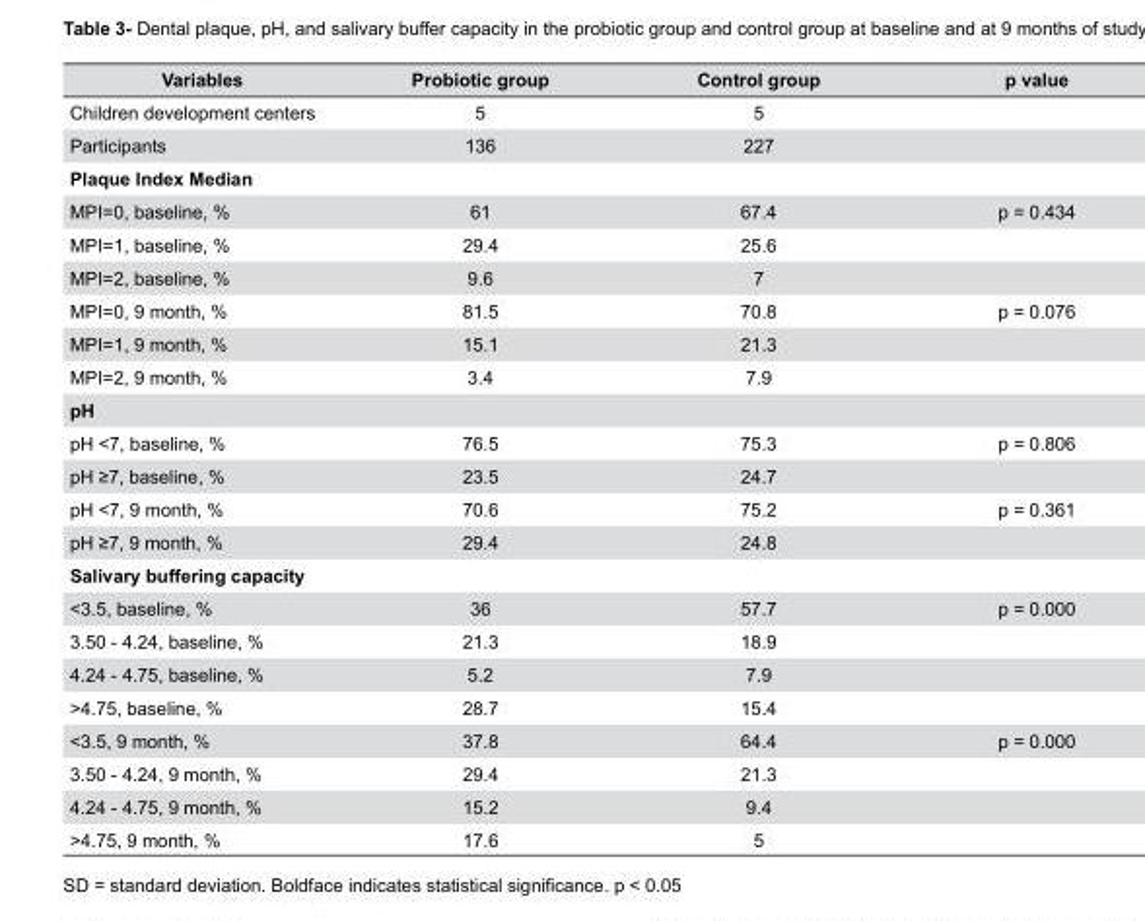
<table><thead><tr><td>Variables</td><td>Probiotic group</td><td>Control group</td><td>p value</td></tr></thead><tbody><tr><td>Children development centers</td><td>5</td><td>5</td><td></td></tr><tr><td>Participants</td><td>136</td><td>227</td><td></td></tr><tr><td colspan="4">Plaque Index Median</td></tr><tr><td>MPI=0, baseline, %</td><td>61</td><td>67.4</td><td>p = 0.434</td></tr><tr><td>MPI=1, baseline, %</td><td>29.4</td><td>25.6</td><td></td></tr><tr><td>MPI=2, baseline, %</td><td>9.6</td><td>7</td><td></td></tr><tr><td>MPI=0, 9 month, %</td><td>81.5</td><td>70.8</td><td>p = 0.076</td></tr><tr><td>MPI=1, 9 month, %</td><td>15.1</td><td>21.3</td><td></td></tr><tr><td>MPI=2, 9 month, %</td><td>3.4</td><td>7.9</td><td></td></tr><tr><td colspan="4">pH</td></tr><tr><td>pH &lt;7, baseline, %</td><td>76.5</td><td>75.3</td><td>p = 0.806</td></tr><tr><td>pH ≥7, baseline, %</td><td>23.5</td><td>24.7</td><td></td></tr><tr><td>pH &lt;7, 9 month, %</td><td>70.6</td><td>75.2</td><td>p = 0.361</td></tr><tr><td>pH ≥7, 9 month, %</td><td>29.4</td><td>24.8</td><td></td></tr><tr><td colspan="4">Salivary buffering capacity</td></tr><tr><td>&lt;3.5, baseline, %</td><td>36</td><td>57.7</td><td>p = 0.000</td></tr><tr><td>3.50 - 4.24, baseline, %</td><td>21.3</td><td>18.9</td><td></td></tr><tr><td>4.24 - 4.75, baseline, %</td><td>5.2</td><td>7.9</td><td></td></tr><tr><td>&gt;4.75, baseline, %</td><td>28.7</td><td>15.4</td><td></td></tr><tr><td>&lt;3.5, 9 month, %</td><td>37.8</td><td>64.4</td><td>p = 0.000</td></tr><tr><td>3.50 - 4.24, 9 month, %</td><td>29.4</td><td>21.3</td><td></td></tr><tr><td>4.24 - 4.75, 9 month, %</td><td>15.2</td><td>9.4</td><td></td></tr><tr><td>&gt;4.75, 9 month, %</td><td>17.6</td><td>5</td><td></td></tr></tbody></table>